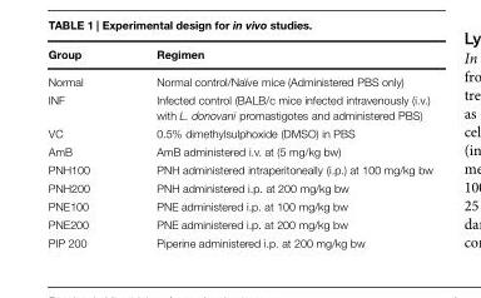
<table><thead><tr><td>Group</td><td>Regimen</td></tr></thead><tbody><tr><td>Normal</td><td>Normal control/Naïve mice (Administered PBS only)</td></tr><tr><td>INF</td><td>Infected control (BALB/c mice infected intravenously (i.v.) with L. donovani promastigotes and administered PBS)</td></tr><tr><td>VC</td><td>0.5% dimethylsulphoxide (DMSO) in PBS</td></tr><tr><td>AmB</td><td>AmB administered i.v. at (5 mg/kg bw)</td></tr><tr><td>PNH100</td><td>PNH administered intraperitoneally (i.p.) at 100 mg/kg bw</td></tr><tr><td>PNH200</td><td>PNH administered i.p. at 200 mg/kg bw</td></tr><tr><td>PNE100</td><td>PNE administered i.p. at 100 mg/kg bw</td></tr><tr><td>PNE200</td><td>PNE administered i.p. at 200 mg/kg bw</td></tr><tr><td>PIP 200</td><td>Piperine administered i.p. at 200 mg/kg bw</td></tr></tbody></table>